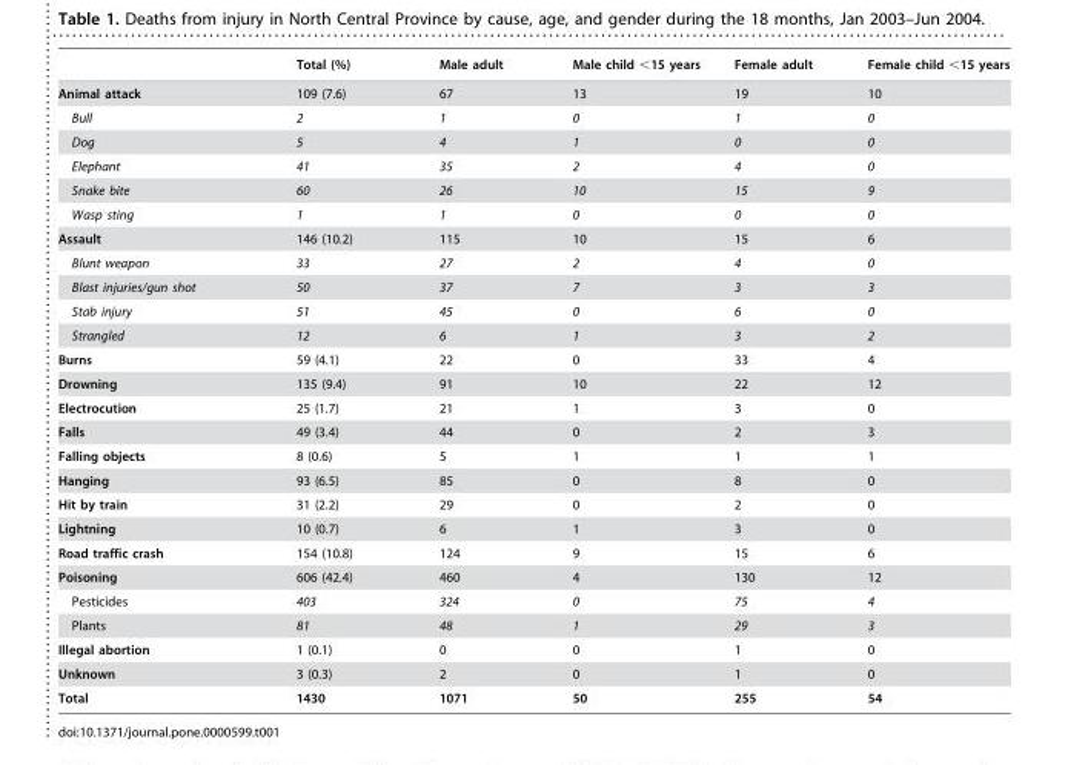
<table><thead><tr><td></td><td>Total (%)</td><td>Male adult</td><td>Male child &lt;15 years</td><td>Female adult</td><td>Female child &lt;15 years</td></tr></thead><tbody><tr><td>Animal attack</td><td>109 (7.6)</td><td>67</td><td>13</td><td>19</td><td>10</td></tr><tr><td>Bull</td><td>2</td><td>1</td><td>0</td><td>1</td><td>0</td></tr><tr><td>Dog</td><td>5</td><td>4</td><td>1</td><td>0</td><td>0</td></tr><tr><td>Elephant</td><td>41</td><td>35</td><td>2</td><td>4</td><td>0</td></tr><tr><td>Snake bite</td><td>60</td><td>26</td><td>10</td><td>15</td><td>9</td></tr><tr><td>Wasp sting</td><td>1</td><td>1</td><td>0</td><td>0</td><td>0</td></tr><tr><td>Assault</td><td>146 (10.2)</td><td>115</td><td>10</td><td>15</td><td>6</td></tr><tr><td>Blunt weapon</td><td>33</td><td>27</td><td>2</td><td>4</td><td>0</td></tr><tr><td>Blast injuries/gun shot</td><td>50</td><td>37</td><td>7</td><td>3</td><td>3</td></tr><tr><td>Stab injury</td><td>51</td><td>45</td><td>0</td><td>6</td><td>0</td></tr><tr><td>Strangled</td><td>12</td><td>6</td><td>1</td><td>3</td><td>2</td></tr><tr><td>Burns</td><td>59 (4.1)</td><td>22</td><td>0</td><td>33</td><td>4</td></tr><tr><td>Drowning</td><td>135 (9.4)</td><td>91</td><td>10</td><td>22</td><td>12</td></tr><tr><td>Electrocution</td><td>25 (1.7)</td><td>21</td><td>1</td><td>3</td><td>0</td></tr><tr><td>Falls</td><td>49 (3.4)</td><td>44</td><td>0</td><td>2</td><td>3</td></tr><tr><td>Falling objects</td><td>8 (0.6)</td><td>5</td><td>1</td><td>1</td><td>1</td></tr><tr><td>Hanging</td><td>93 (6.5)</td><td>85</td><td>0</td><td>8</td><td>0</td></tr><tr><td>Hit by train</td><td>31 (2.2)</td><td>29</td><td>0</td><td>2</td><td>0</td></tr><tr><td>Lightning</td><td>10 (0.7)</td><td>6</td><td>1</td><td>3</td><td>0</td></tr><tr><td>Road traffic crash</td><td>154 (10.8)</td><td>124</td><td>9</td><td>15</td><td>6</td></tr><tr><td>Poisoning</td><td>606 (42.4)</td><td>460</td><td>4</td><td>130</td><td>12</td></tr><tr><td>Pesticides</td><td>403</td><td>324</td><td>0</td><td>75</td><td>4</td></tr><tr><td>Plants</td><td>81</td><td>48</td><td>1</td><td>29</td><td>3</td></tr><tr><td>Illegal abortion</td><td>1 (0.1)</td><td>0</td><td>0</td><td>1</td><td>0</td></tr><tr><td>Unknown</td><td>3 (0.3)</td><td>2</td><td>0</td><td>1</td><td>0</td></tr><tr><td>Total</td><td>1430</td><td>1071</td><td>50</td><td>255</td><td>54</td></tr></tbody></table>